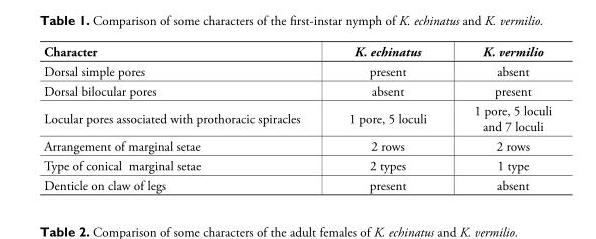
<table><thead><tr><td>Character</td><td>K. echinatus</td><td>K. vermilio</td></tr></thead><tbody><tr><td>Dorsal simple pores</td><td>present</td><td>absent</td></tr><tr><td>Dorsal bilocular pores</td><td>absent</td><td>present</td></tr><tr><td>Locular pores associated with prothoracic spiracles</td><td>1 pore, 5 loculi</td><td>1 pore, 5 loculi and 7 loculi</td></tr><tr><td>Arrangement of marginal setae</td><td>2 rows</td><td>2 rows</td></tr><tr><td>Type of conical marginal setae</td><td>2 types</td><td>1 type</td></tr><tr><td>Denticle on claw of legs</td><td>present</td><td>absent</td></tr></tbody></table>